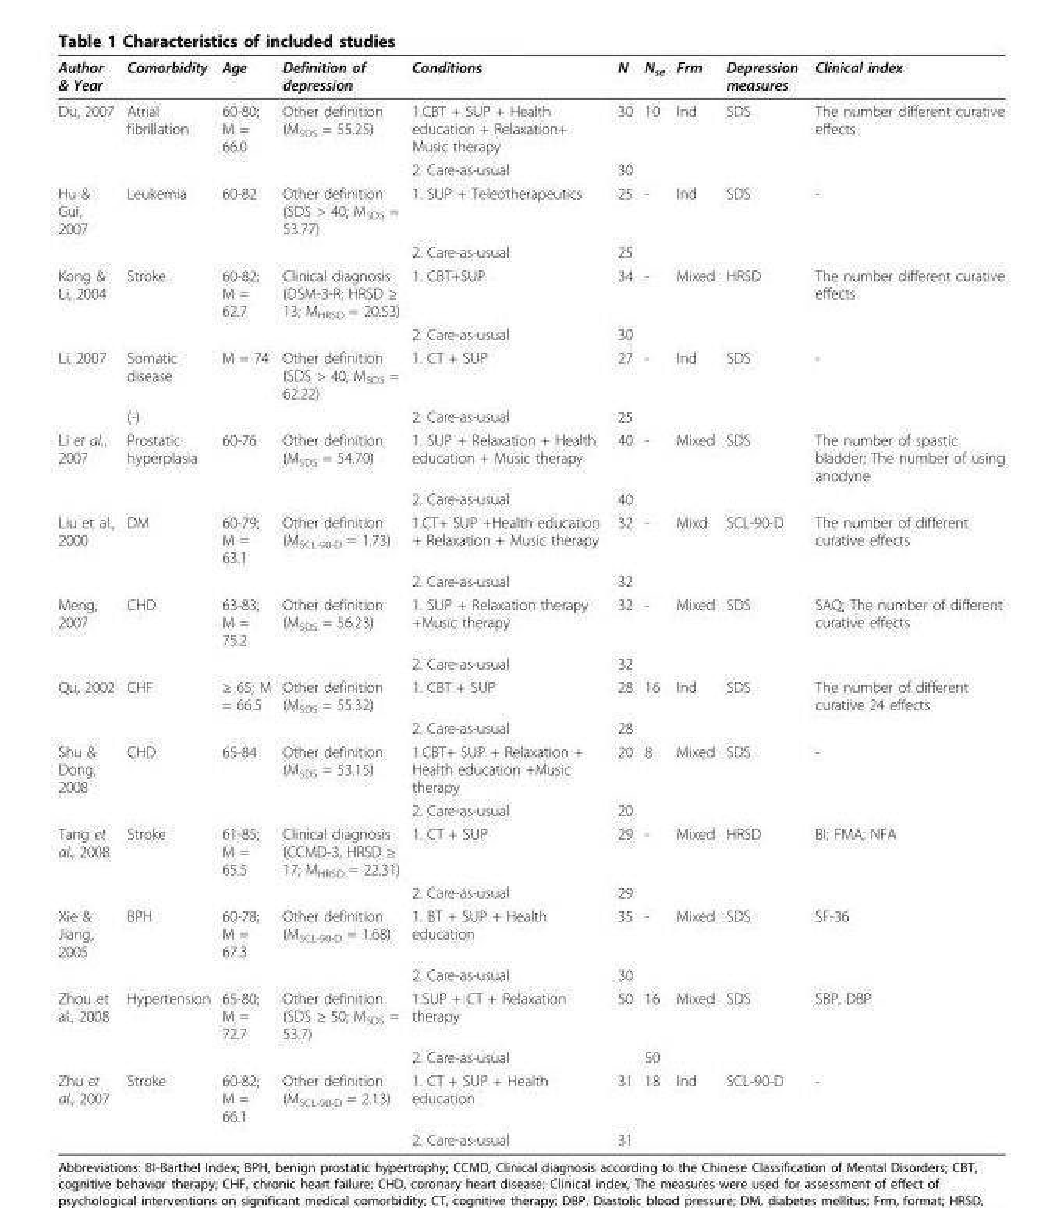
<table><thead><tr><td>Author &amp; Year</td><td>Comorbidity</td><td>Age</td><td>Definition of depression</td><td>Conditions</td><td>N</td><td>N<sub>se</sub></td><td>Frm</td><td>Depression measures</td><td>Clinical index</td></tr></thead><tbody><tr><td rowspan="2">Du, 2007</td><td>Atrial fibrillation</td><td>60-80; M = 66.0</td><td>Other definition (M<sub>SDS</sub> = 55.25)</td><td>1.CBT + SUP + Health education + Relaxation+ Music therapy</td><td>30</td><td>10</td><td>Ind</td><td>SDS</td><td>The number different curative effects</td></tr><tr><td></td><td></td><td></td><td>2. Care-as-usual</td><td>30</td><td></td><td></td><td></td><td></td></tr><tr><td rowspan="2">Hu &amp; Gui, 2007</td><td>Leukemia</td><td>60-82</td><td>Other definition (SDS &gt; 40; M<sub>SDS</sub> = 53.77)</td><td>1. SUP + Teleotherapeutics</td><td>25</td><td>-</td><td>Ind</td><td>SDS</td><td>-</td></tr><tr><td></td><td></td><td></td><td>2. Care-as-usual</td><td>25</td><td></td><td></td><td></td><td></td></tr><tr><td rowspan="2">Kong &amp; Li, 2004</td><td>Stroke</td><td>60-82; M = 62.7</td><td>Clinical diagnosis (DSM-3-R; HRSD ≥ 13; M<sub>HRSD</sub> = 20.53)</td><td>1. CBT+SUP</td><td>34</td><td>-</td><td>Mixed</td><td>HRSD</td><td>The number different curative effects</td></tr><tr><td></td><td></td><td></td><td>2. Care-as-usual</td><td>30</td><td></td><td></td><td></td><td></td></tr><tr><td rowspan="2">Li, 2007</td><td>Somatic disease</td><td>M = 74</td><td>Other definition (SDS &gt; 40; M<sub>SDS</sub> = 62.22)</td><td>1. CT + SUP</td><td>27</td><td>-</td><td>Ind</td><td>SDS</td><td>-</td></tr><tr><td>(-)</td><td></td><td></td><td>2. Care-as-usual</td><td>25</td><td></td><td></td><td></td><td></td></tr><tr><td rowspan="2">Li et al., 2007</td><td>Prostatic hyperplasia</td><td>60-76</td><td>Other definition (M<sub>SDS</sub> = 54.70)</td><td>1. SUP + Relaxation + Health education + Music therapy</td><td>40</td><td>-</td><td>Mixed</td><td>SDS</td><td>The number of spastic bladder; The number of using anodyne</td></tr><tr><td></td><td></td><td></td><td>2. Care-as-usual</td><td>40</td><td></td><td></td><td></td><td></td></tr><tr><td rowspan="2">Liu et al., 2000</td><td>DM</td><td>60-79; M = 63.1</td><td>Other definition (M<sub>SCL-90-D</sub> = 1.73)</td><td>1.CT+ SUP +Health education + Relaxation + Music therapy</td><td>32</td><td>-</td><td>Mixd</td><td>SCL-90-D</td><td>The number of different curative effects</td></tr><tr><td></td><td></td><td></td><td>2. Care-as-usual</td><td>32</td><td></td><td></td><td></td><td></td></tr><tr><td rowspan="2">Meng, 2007</td><td>CHD</td><td>63-83; M = 75.2</td><td>Other definition (M<sub>SDS</sub> = 56.23)</td><td>1. SUP + Relaxation therapy +Music therapy</td><td>32</td><td>-</td><td>Mixed</td><td>SDS</td><td>SAQ; The number of different curative effects</td></tr><tr><td></td><td></td><td></td><td>2. Care-as-usual</td><td>32</td><td></td><td></td><td></td><td></td></tr><tr><td rowspan="2">Qu, 2002</td><td>CHF</td><td>≥ 65; M = 66.5</td><td>Other definition (M<sub>SDS</sub> = 55.32)</td><td>1. CBT + SUP</td><td>28</td><td>16</td><td>Ind</td><td>SDS</td><td>The number of different curative 24 effects</td></tr><tr><td></td><td></td><td></td><td>2. Care-as-usual</td><td>28</td><td></td><td></td><td></td><td></td></tr><tr><td rowspan="2">Shu &amp; Dong, 2008</td><td>CHD</td><td>65-84</td><td>Other definition (M<sub>SDS</sub> = 53.15)</td><td>1.CBT+ SUP + Relaxation + Health education +Music therapy</td><td>20</td><td>8</td><td>Mixed</td><td>SDS</td><td>-</td></tr><tr><td></td><td></td><td></td><td>2. Care-as-usual</td><td>20</td><td></td><td></td><td></td><td></td></tr><tr><td rowspan="2">Tang et al., 2008</td><td>Stroke</td><td>61-85; M = 65.5</td><td>Clinical diagnosis (CCMD-3, HRSD ≥ 17; M<sub>HRSD</sub> = 22.31)</td><td>1. CT + SUP</td><td>29</td><td>-</td><td>Mixed</td><td>HRSD</td><td>BI; FMA; NFA</td></tr><tr><td></td><td></td><td></td><td>2. Care-as-usual</td><td>29</td><td></td><td></td><td></td><td></td></tr><tr><td rowspan="2">Xie &amp; Jiang, 2005</td><td>BPH</td><td>60-78; M = 67.3</td><td>Other definition (M<sub>SCL-90-D</sub> = 1.68)</td><td>1. BT + SUP + Health education</td><td>35</td><td>-</td><td>Mixed</td><td>SDS</td><td>SF-36</td></tr><tr><td></td><td></td><td></td><td>2. Care-as-usual</td><td>30</td><td></td><td></td><td></td><td></td></tr><tr><td rowspan="2">Zhou et al., 2008</td><td>Hypertension</td><td>65-80; M = 72.7</td><td>Other definition (SDS ≥ 50; M<sub>SDS</sub> = 53.7)</td><td>1.SUP + CT + Relaxation therapy</td><td>50</td><td>16</td><td>Mixed</td><td>SDS</td><td>SBP, DBP</td></tr><tr><td></td><td></td><td></td><td>2. Care-as-usual</td><td></td><td>50</td><td></td><td></td><td></td></tr><tr><td rowspan="2">Zhu et al., 2007</td><td>Stroke</td><td>60-82; M = 66.1</td><td>Other definition (M<sub>SCL-90-D</sub> = 2.13)</td><td>1. CT + SUP + Health education</td><td>31</td><td>18</td><td>Ind</td><td>SCL-90-D</td><td>-</td></tr><tr><td></td><td></td><td></td><td>2. Care-as-usual</td><td>31</td><td></td><td></td><td></td><td></td></tr></tbody></table>